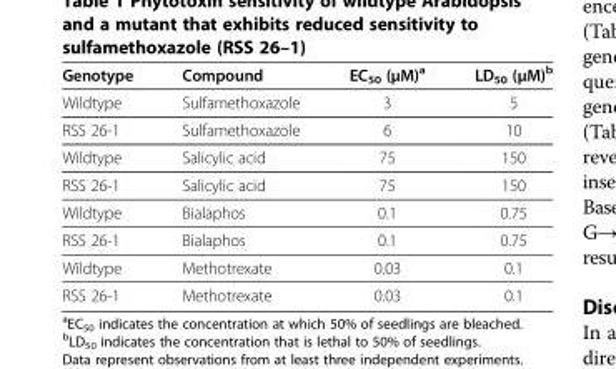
<table><thead><tr><td>Genotype</td><td>Compound</td><td>EC<sub>50</sub> (μM)<sup>a</sup></td><td>LD<sub>50</sub> (μM)<sup>b</sup></td></tr></thead><tbody><tr><td>Wildtype</td><td>Sulfamethoxazole</td><td>3</td><td>5</td></tr><tr><td>RSS 26-1</td><td>Sulfamethoxazole</td><td>6</td><td>10</td></tr><tr><td>Wildtype</td><td>Salicylic acid</td><td>75</td><td>150</td></tr><tr><td>RSS 26-1</td><td>Salicylic acid</td><td>75</td><td>150</td></tr><tr><td>Wildtype</td><td>Bialaphos</td><td>0.1</td><td>0.75</td></tr><tr><td>RSS 26-1</td><td>Bialaphos</td><td>0.1</td><td>0.75</td></tr><tr><td>Wildtype</td><td>Methotrexate</td><td>0.03</td><td>0.1</td></tr><tr><td>RSS 26-1</td><td>Methotrexate</td><td>0.03</td><td>0.1</td></tr></tbody></table>